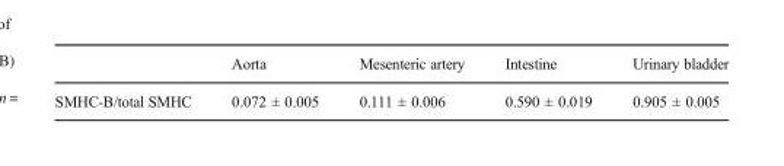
<table><thead><tr><td></td><td>Aorta</td><td>Mesenteric artery</td><td>Intestine</td><td>Urinary bladder</td></tr></thead><tbody><tr><td>SMHC-B/total SMHC</td><td>0.072 ± 0.005</td><td>0.111 ± 0.006</td><td>0.590 ± 0.019</td><td>0.905 ± 0.005</td></tr></tbody></table>